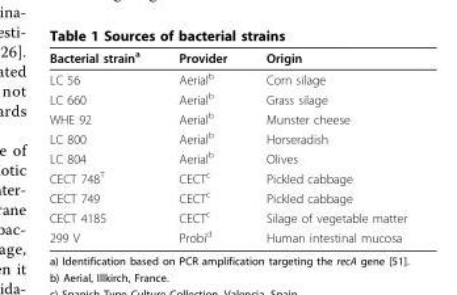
<table><thead><tr><td>Bacterial strain<sup>a</sup></td><td>Provider</td><td>Origin</td></tr></thead><tbody><tr><td>LC 56</td><td>Aerial<sup>b</sup></td><td>Corn silage</td></tr><tr><td>LC 660</td><td>Aerial<sup>b</sup></td><td>Grass silage</td></tr><tr><td>WHE 92</td><td>Aerial<sup>b</sup></td><td>Munster cheese</td></tr><tr><td>LC 800</td><td>Aerial<sup>b</sup></td><td>Horseradish</td></tr><tr><td>LC 804</td><td>Aerial<sup>b</sup></td><td>Olives</td></tr><tr><td>CECT 748<sup>T</sup></td><td>CECT<sup>c</sup></td><td>Pickled cabbage</td></tr><tr><td>CECT 749</td><td>CECT<sup>c</sup></td><td>Pickled cabbage</td></tr><tr><td>CECT 4185</td><td>CECT<sup>c</sup></td><td>Silage of vegetable matter</td></tr><tr><td>299 V</td><td>Probi<sup>d</sup></td><td>Human intestinal mucosa</td></tr></tbody></table>